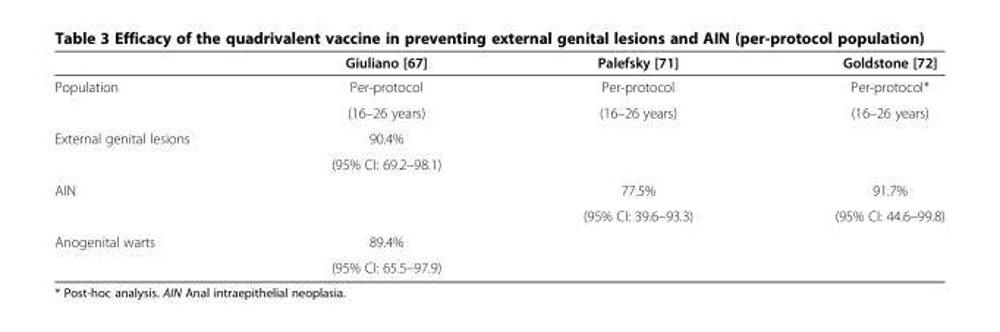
<table><thead><tr><td></td><td>Giuliano [67]</td><td>Palefsky [71]</td><td>Goldstone [72]</td></tr></thead><tbody><tr><td rowspan="2">Population</td><td>Per-protocol</td><td>Per-protocol</td><td>Per-protocol*</td></tr><tr><td>(16–26 years)</td><td>(16–26 years)</td><td>(16–26 years)</td></tr><tr><td rowspan="2">External genital lesions</td><td>90.4%</td><td rowspan="2"></td><td rowspan="2"></td></tr><tr><td>(95% CI: 69.2–98.1)</td></tr><tr><td rowspan="2">AIN</td><td rowspan="2"></td><td>77.5%</td><td>91.7%</td></tr><tr><td>(95% CI: 39.6–93.3)</td><td>(95% CI: 44.6–99.8)</td></tr><tr><td rowspan="2">Anogenital warts</td><td>89.4%</td><td></td><td></td></tr><tr><td>(95% CI: 65.5–97.9)</td><td></td><td></td></tr></tbody></table>